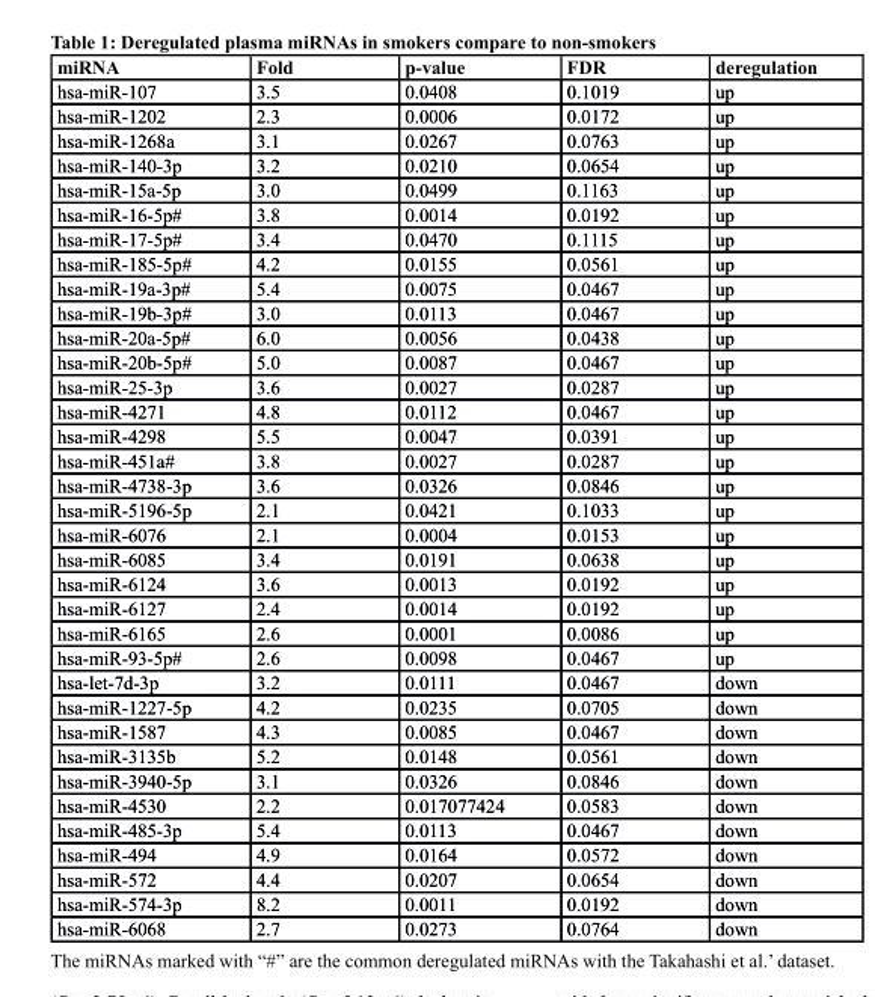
<table><thead><tr><td>mirNA</td><td>Fold</td><td>p-value</td><td>FDr</td><td>deregulation</td></tr></thead><tbody><tr><td>hsa-miR-107</td><td>3.5</td><td>0.0408</td><td>0.1019</td><td>up</td></tr><tr><td>hsa-miR-1202</td><td>2.3</td><td>0.0006</td><td>0.0172</td><td>up</td></tr><tr><td>hsa-miR-1268a</td><td>3.1</td><td>0.0267</td><td>0.0763</td><td>up</td></tr><tr><td>hsa-miR-140-3p</td><td>3.2</td><td>0.0210</td><td>0.0654</td><td>up</td></tr><tr><td>hsa-miR-15a-5p</td><td>3.0</td><td>0.0499</td><td>0.1163</td><td>up</td></tr><tr><td>hsa-miR-16-5p#</td><td>3.8</td><td>0.0014</td><td>0.0192</td><td>up</td></tr><tr><td>hsa-miR-17-5p#</td><td>3.4</td><td>0.0470</td><td>0.1115</td><td>up</td></tr><tr><td>hsa-miR-185-5p#</td><td>4.2</td><td>0.0155</td><td>0.0561</td><td>up</td></tr><tr><td>hsa-miR-19a-3p#</td><td>5.4</td><td>0.0075</td><td>0.0467</td><td>up</td></tr><tr><td>hsa-miR-19b-3p#</td><td>3.0</td><td>0.0113</td><td>0.0467</td><td>up</td></tr><tr><td>hsa-miR-20a-5p#</td><td>6.0</td><td>0.0056</td><td>0.0438</td><td>up</td></tr><tr><td>hsa-miR-20b-5p#</td><td>5.0</td><td>0.0087</td><td>0.0467</td><td>up</td></tr><tr><td>hsa-miR-25-3p</td><td>3.6</td><td>0.0027</td><td>0.0287</td><td>up</td></tr><tr><td>hsa-miR-4271</td><td>4.8</td><td>0.0112</td><td>0.0467</td><td>up</td></tr><tr><td>hsa-miR-4298</td><td>5.5</td><td>0.0047</td><td>0.0391</td><td>up</td></tr><tr><td>hsa-miR-451a#</td><td>3.8</td><td>0.0027</td><td>0.0287</td><td>up</td></tr><tr><td>hsa-miR-4738-3p</td><td>3.6</td><td>0.0326</td><td>0.0846</td><td>up</td></tr><tr><td>hsa-miR-5196-5p</td><td>2.1</td><td>0.0421</td><td>0.1033</td><td>up</td></tr><tr><td>hsa-miR-6076</td><td>2.1</td><td>0.0004</td><td>0.0153</td><td>up</td></tr><tr><td>hsa-miR-6085</td><td>3.4</td><td>0.0191</td><td>0.0638</td><td>up</td></tr><tr><td>hsa-miR-6124</td><td>3.6</td><td>0.0013</td><td>0.0192</td><td>up</td></tr><tr><td>hsa-miR-6127</td><td>2.4</td><td>0.0014</td><td>0.0192</td><td>up</td></tr><tr><td>hsa-miR-6165</td><td>2.6</td><td>0.0001</td><td>0.0086</td><td>up</td></tr><tr><td>hsa-miR-93-5p#</td><td>2.6</td><td>0.0098</td><td>0.0467</td><td>up</td></tr><tr><td>hsa-let-7d-3p</td><td>3.2</td><td>0.0111</td><td>0.0467</td><td>down</td></tr><tr><td>hsa-miR-1227-5p</td><td>4.2</td><td>0.0235</td><td>0.0705</td><td>down</td></tr><tr><td>hsa-miR-1587</td><td>4.3</td><td>0.0085</td><td>0.0467</td><td>down</td></tr><tr><td>hsa-miR-3135b</td><td>5.2</td><td>0.0148</td><td>0.0561</td><td>down</td></tr><tr><td>hsa-miR-3940-5p</td><td>3.1</td><td>0.0326</td><td>0.0846</td><td>down</td></tr><tr><td>hsa-miR-4530</td><td>2.2</td><td>0.017077424</td><td>0.0583</td><td>down</td></tr><tr><td>hsa-miR-485-3p</td><td>5.4</td><td>0.0113</td><td>0.0467</td><td>down</td></tr><tr><td>hsa-miR-494</td><td>4.9</td><td>0.0164</td><td>0.0572</td><td>down</td></tr><tr><td>hsa-miR-572</td><td>4.4</td><td>0.0207</td><td>0.0654</td><td>down</td></tr><tr><td>hsa-miR-574-3p</td><td>8.2</td><td>0.0011</td><td>0.0192</td><td>down</td></tr><tr><td>hsa-miR-6068</td><td>2.7</td><td>0.0273</td><td>0.0764</td><td>down</td></tr></tbody></table>